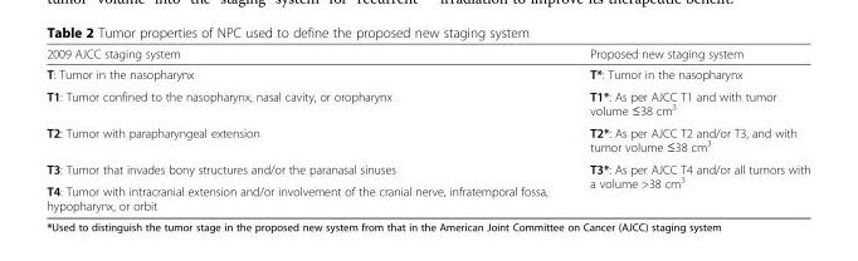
<table><thead><tr><td>2009 AJCC staging system</td><td>Proposed new staging system</td></tr></thead><tbody><tr><td>T: Tumor in the nasopharynx</td><td>T*: Tumor in the nasopharynx</td></tr><tr><td>T1: Tumor confined to the nasopharynx, nasal cavity, or oropharynx</td><td>T1*: As per AJCC T1 and with tumor volume ≤38 cm<sup>3</sup></td></tr><tr><td>T2: Tumor with parapharyngeal extension</td><td>T2*: As per AJCC T2 and/or T3, and with tumor volume ≤38 cm<sup>3</sup></td></tr><tr><td>T3: Tumor that invades bony structures and/or the paranasal sinuses</td><td rowspan="2">T3*: As per AJCC T4 and/or all tumors with a volume &gt;38 cm<sup>3</sup></td></tr><tr><td>T4: Tumor with intracranial extension and/or involvement of the cranial nerve, infratemporal fossa, hypopharynx, or orbit</td></tr></tbody></table>